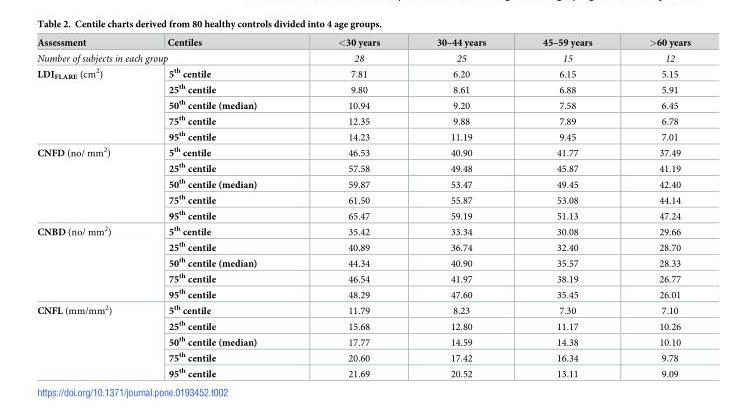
<table><thead><tr><td>Assessment</td><td>Centiles</td><td>&lt;30 years</td><td>30–44 years</td><td>45–59 years</td><td>&gt;60 years</td></tr></thead><tbody><tr><td colspan="2">Number of subjects in each group</td><td>28</td><td>25</td><td>15</td><td>12</td></tr><tr><td rowspan="5">LDI<sub>FLARE</sub> (cm<sup>2</sup>)</td><td>5<sup>th</sup> centile</td><td>7.81</td><td>6.20</td><td>6.15</td><td>5.15</td></tr><tr><td>25<sup>th</sup> centile</td><td>9.80</td><td>8.61</td><td>6.88</td><td>5.91</td></tr><tr><td>50<sup>th</sup> centile (median)</td><td>10.94</td><td>9.20</td><td>7.58</td><td>6.45</td></tr><tr><td>75<sup>th</sup> centile</td><td>12.35</td><td>9.88</td><td>7.89</td><td>6.78</td></tr><tr><td>95<sup>th</sup> centile</td><td>14.23</td><td>11.19</td><td>9.45</td><td>7.01</td></tr><tr><td rowspan="5">CNFD (no/ mm<sup>2</sup>)</td><td>5<sup>th</sup> centile</td><td>46.53</td><td>40.90</td><td>41.77</td><td>37.49</td></tr><tr><td>25<sup>th</sup> centile</td><td>57.58</td><td>49.48</td><td>45.87</td><td>41.19</td></tr><tr><td>50<sup>th</sup> centile (median)</td><td>59.87</td><td>53.47</td><td>49.45</td><td>42.40</td></tr><tr><td>75<sup>th</sup> centile</td><td>61.50</td><td>55.87</td><td>53.08</td><td>44.14</td></tr><tr><td>95<sup>th</sup> centile</td><td>65.47</td><td>59.19</td><td>51.13</td><td>47.24</td></tr><tr><td rowspan="5">CNBD (no/ mm<sup>2</sup>)</td><td>5<sup>th</sup> centile</td><td>35.42</td><td>33.34</td><td>30.08</td><td>29.66</td></tr><tr><td>25<sup>th</sup> centile</td><td>40.89</td><td>36.74</td><td>32.40</td><td>28.70</td></tr><tr><td>50<sup>th</sup> centile (median)</td><td>44.34</td><td>40.90</td><td>35.57</td><td>28.33</td></tr><tr><td>75<sup>th</sup> centile</td><td>46.54</td><td>41.97</td><td>38.19</td><td>26.77</td></tr><tr><td>95<sup>th</sup> centile</td><td>48.29</td><td>47.60</td><td>35.45</td><td>26.01</td></tr><tr><td rowspan="5">CNFL (mm/mm<sup>2</sup>)</td><td>5<sup>th</sup> centile</td><td>11.79</td><td>8.23</td><td>7.30</td><td>7.10</td></tr><tr><td>25<sup>th</sup> centile</td><td>15.68</td><td>12.80</td><td>11.17</td><td>10.26</td></tr><tr><td>50<sup>th</sup> centile (median)</td><td>17.77</td><td>14.59</td><td>14.38</td><td>10.10</td></tr><tr><td>75<sup>th</sup> centile</td><td>20.60</td><td>17.42</td><td>16.34</td><td>9.78</td></tr><tr><td>95<sup>th</sup> centile</td><td>21.69</td><td>20.52</td><td>13.11</td><td>9.09</td></tr></tbody></table>